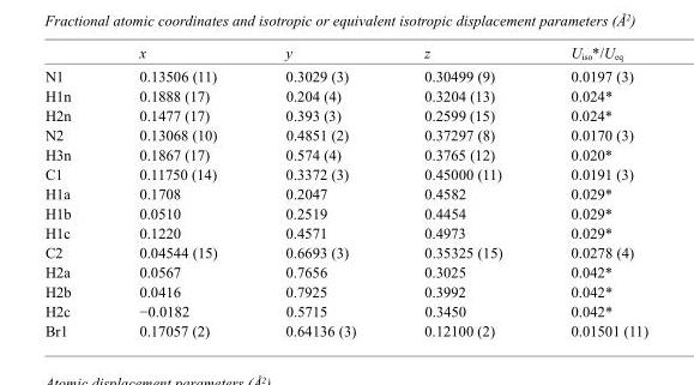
<table><thead><tr><td></td><td>x</td><td>y</td><td>z</td><td>U<sub>iso</sub>*/U<sub>eq</sub></td></tr></thead><tbody><tr><td>N1</td><td>0.13506 (11)</td><td>0.3029 (3)</td><td>0.30499 (9)</td><td>0.0197 (3)</td></tr><tr><td>H1n</td><td>0.1888 (17)</td><td>0.204 (4)</td><td>0.3204 (13)</td><td>0.024*</td></tr><tr><td>H2n</td><td>0.1477 (17)</td><td>0.393 (3)</td><td>0.2599 (15)</td><td>0.024*</td></tr><tr><td>N2</td><td>0.13068 (10)</td><td>0.4851 (2)</td><td>0.37297 (8)</td><td>0.0170 (3)</td></tr><tr><td>H3n</td><td>0.1867 (17)</td><td>0.574 (4)</td><td>0.3765 (12)</td><td>0.020*</td></tr><tr><td>C1</td><td>0.11750 (14)</td><td>0.3372 (3)</td><td>0.45000 (11)</td><td>0.0191 (3)</td></tr><tr><td>H1a</td><td>0.1708</td><td>0.2047</td><td>0.4582</td><td>0.029*</td></tr><tr><td>H1b</td><td>0.0510</td><td>0.2519</td><td>0.4454</td><td>0.029*</td></tr><tr><td>H1c</td><td>0.1220</td><td>0.4571</td><td>0.4973</td><td>0.029*</td></tr><tr><td>C2</td><td>0.04544 (15)</td><td>0.6693 (3)</td><td>0.35325 (15)</td><td>0.0278 (4)</td></tr><tr><td>H2a</td><td>0.0567</td><td>0.7656</td><td>0.3025</td><td>0.042*</td></tr><tr><td>H2b</td><td>0.0416</td><td>0.7925</td><td>0.3992</td><td>0.042*</td></tr><tr><td>H2c</td><td>−0.0182</td><td>0.5715</td><td>0.3450</td><td>0.042*</td></tr><tr><td>Br1</td><td>0.17057 (2)</td><td>0.64136 (3)</td><td>0.12100 (2)</td><td>0.01501 (11)</td></tr></tbody></table>